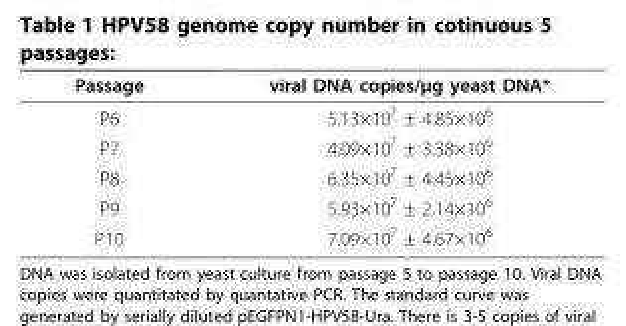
<table><thead><tr><td>Passage</td><td>viral DNA copies/μg yeast DNA*</td></tr></thead><tbody><tr><td>P6</td><td>5.13×10<sup>7</sup> ± 4.85×10<sup>6</sup></td></tr><tr><td>P7</td><td>4.09×10<sup>7</sup> ± 3.38×10<sup>6</sup></td></tr><tr><td>P8</td><td>6.35×10<sup>7</sup> ± 4.45×10<sup>6</sup></td></tr><tr><td>P9</td><td>5.93×10<sup>7</sup> ± 2.14×10<sup>6</sup></td></tr><tr><td>P10</td><td>7.09×10<sup>7</sup> ± 4.67×10<sup>6</sup></td></tr></tbody></table>